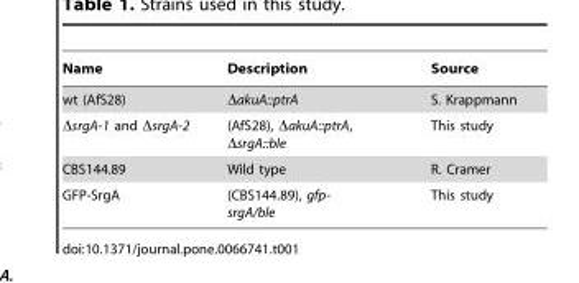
<table><thead><tr><td>Name</td><td>Description</td><td>Source</td></tr></thead><tbody><tr><td>wt (AfS28)</td><td>ΔakuA::ptrA</td><td>S. Krappmann</td></tr><tr><td>ΔsrgA-1 and ΔsrgA-2</td><td>(AfS28), ΔakuA::ptrA, ΔsrgA::ble</td><td>This study</td></tr><tr><td>CBS144.89</td><td>Wild type</td><td>R. Cramer</td></tr><tr><td>GFP-SrgA</td><td>(CBS144.89), gfp- srgA/ble</td><td>This study</td></tr></tbody></table>